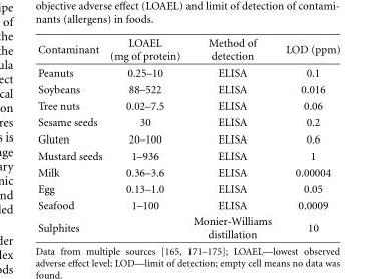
<table><thead><tr><td>Contaminant</td><td>LOAEL (mg of protein)</td><td>Method of detection</td><td>LOD (ppm)</td></tr></thead><tbody><tr><td>Peanuts</td><td>0.25–10</td><td>ELISA</td><td>0.1</td></tr><tr><td>Soybeans</td><td>88–522</td><td>ELISA</td><td>0.016</td></tr><tr><td>Tree nuts</td><td>0.02–7.5</td><td>ELISA</td><td>0.06</td></tr><tr><td>Sesame seeds</td><td>30</td><td>ELISA</td><td>0.2</td></tr><tr><td>Gluten</td><td>20–100</td><td>ELISA</td><td>0.6</td></tr><tr><td>Mustard seeds</td><td>1–936</td><td>ELISA</td><td>1</td></tr><tr><td>Milk</td><td>0.36–3.6</td><td>ELISA</td><td>0.00004</td></tr><tr><td>Egg</td><td>0.13–1.0</td><td>ELISA</td><td>0.05</td></tr><tr><td>Seafood</td><td>1–100</td><td>ELISA</td><td>0.0009</td></tr><tr><td>Sulphites</td><td></td><td>Monier-Williams distillation</td><td>10</td></tr></tbody></table>